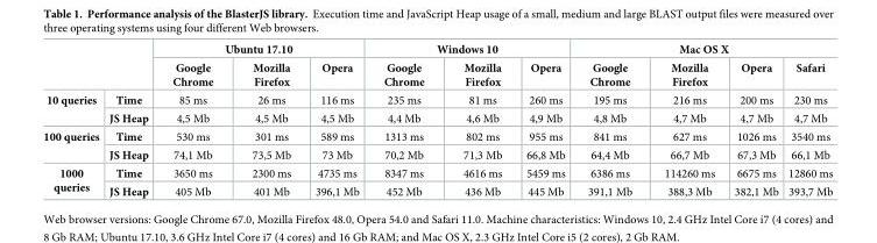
<table><thead><tr><td rowspan="2"></td><td rowspan="2"></td><td colspan="3">Ubuntu 17.10</td><td colspan="3">Windows 10</td><td colspan="4">Mac OS X</td></tr><tr><td>Google Chrome</td><td>Mozilla Firefox</td><td>Opera</td><td>Google Chrome</td><td>Mozilla Firefox</td><td>Opera</td><td>Google Chrome</td><td>Mozilla Firefox</td><td>Opera</td><td>Safari</td></tr></thead><tbody><tr><td rowspan="2">10 queries</td><td>Time</td><td>85 ms</td><td>26 ms</td><td>116 ms</td><td>235 ms</td><td>81 ms</td><td>260 ms</td><td>195 ms</td><td>216 ms</td><td>200 ms</td><td>230 ms</td></tr><tr><td>JS Heap</td><td>4,5 Mb</td><td>4,5 Mb</td><td>4,5 Mb</td><td>4,4 Mb</td><td>4,6 Mb</td><td>4,9 Mb</td><td>4,8 Mb</td><td>4,7 Mb</td><td>4,7 Mb</td><td>4,7 Mb</td></tr><tr><td rowspan="2">100 queries</td><td>Time</td><td>530 ms</td><td>301 ms</td><td>589 ms</td><td>1313 ms</td><td>802 ms</td><td>955 ms</td><td>841 ms</td><td>627 ms</td><td>1026 ms</td><td>3540 ms</td></tr><tr><td>JS Heap</td><td>74,1 Mb</td><td>73,5 Mb</td><td>73 Mb</td><td>70,2 Mb</td><td>71,3 Mb</td><td>66,8 Mb</td><td>64,4 Mb</td><td>66,7 Mb</td><td>67,3 Mb</td><td>66,1 Mb</td></tr><tr><td rowspan="2">1000 queries</td><td>Time</td><td>3650 ms</td><td>2300 ms</td><td>4735 ms</td><td>8347 ms</td><td>4616 ms</td><td>5459 ms</td><td>6386 ms</td><td>114260 ms</td><td>6675 ms</td><td>12860 ms</td></tr><tr><td>JS Heap</td><td>405 Mb</td><td>401 Mb</td><td>396,1 Mb</td><td>452 Mb</td><td>436 Mb</td><td>445 Mb</td><td>391,1 Mb</td><td>388,3 Mb</td><td>382,1 Mb</td><td>393,7 Mb</td></tr></tbody></table>